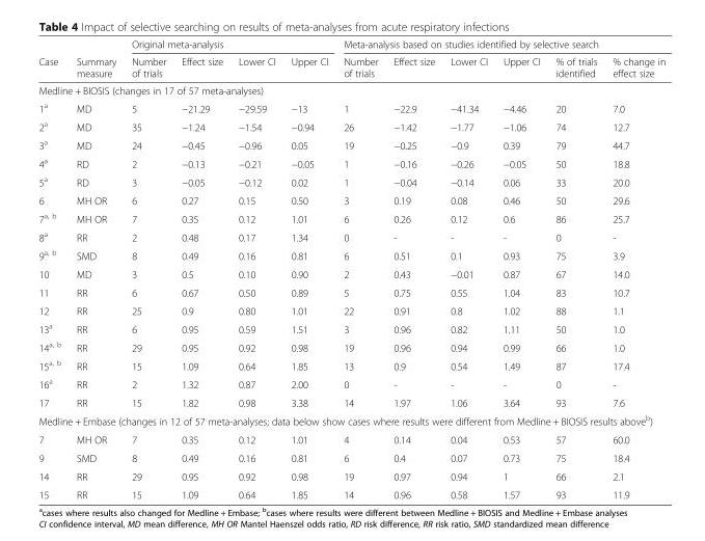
<table><thead><tr><td rowspan="2">Case</td><td rowspan="2">Summary measure</td><td colspan="4">Original meta-analysis</td><td colspan="6">Meta-analysis based on studies identified by selective search</td></tr><tr><td>Number of trials</td><td>Effect size</td><td>Lower CI</td><td>Upper CI</td><td>Number of trials</td><td>Effect size</td><td>Lower CI</td><td>Upper CI</td><td>% of trials identified</td><td>% change in effect size</td></tr></thead><tbody><tr><td colspan="12">Medline + BIOSIS (changes in 17 of 57 meta-analyses)</td></tr><tr><td>1<sup>a</sup></td><td>MD</td><td>5</td><td>−21.29</td><td>−29.59</td><td>−13</td><td>1</td><td>−22.9</td><td>−41.34</td><td>−4.46</td><td>20</td><td>7.0</td></tr><tr><td>2<sup>a</sup></td><td>MD</td><td>35</td><td>−1.24</td><td>−1.54</td><td>−0.94</td><td>26</td><td>−1.42</td><td>−1.77</td><td>−1.06</td><td>74</td><td>12.7</td></tr><tr><td>3<sup>a</sup></td><td>MD</td><td>24</td><td>−0.45</td><td>−0.96</td><td>0.05</td><td>19</td><td>−0.25</td><td>−0.9</td><td>0.39</td><td>79</td><td>44.7</td></tr><tr><td>4<sup>a</sup></td><td>RD</td><td>2</td><td>−0.13</td><td>−0.21</td><td>−0.05</td><td>1</td><td>−0.16</td><td>−0.26</td><td>−0.05</td><td>50</td><td>18.8</td></tr><tr><td>5<sup>a</sup></td><td>RD</td><td>3</td><td>−0.05</td><td>−0.12</td><td>0.02</td><td>1</td><td>−0.04</td><td>−0.14</td><td>0.06</td><td>33</td><td>20.0</td></tr><tr><td>6</td><td>MH OR</td><td>6</td><td>0.27</td><td>0.15</td><td>0.50</td><td>3</td><td>0.19</td><td>0.08</td><td>0.46</td><td>50</td><td>29.6</td></tr><tr><td>7<sup>a, b</sup></td><td>MH OR</td><td>7</td><td>0.35</td><td>0.12</td><td>1.01</td><td>6</td><td>0.26</td><td>0.12</td><td>0.6</td><td>86</td><td>25.7</td></tr><tr><td>8<sup>a</sup></td><td>RR</td><td>2</td><td>0.48</td><td>0.17</td><td>1.34</td><td>0</td><td>-</td><td>-</td><td>-</td><td>0</td><td>-</td></tr><tr><td>9<sup>a, b</sup></td><td>SMD</td><td>8</td><td>0.49</td><td>0.16</td><td>0.81</td><td>6</td><td>0.51</td><td>0.1</td><td>0.93</td><td>75</td><td>3.9</td></tr><tr><td>10</td><td>MD</td><td>3</td><td>0.5</td><td>0.10</td><td>0.90</td><td>2</td><td>0.43</td><td>−0.01</td><td>0.87</td><td>67</td><td>14.0</td></tr><tr><td>11</td><td>RR</td><td>6</td><td>0.67</td><td>0.50</td><td>0.89</td><td>5</td><td>0.75</td><td>0.55</td><td>1.04</td><td>83</td><td>10.7</td></tr><tr><td>12</td><td>RR</td><td>25</td><td>0.9</td><td>0.80</td><td>1.01</td><td>22</td><td>0.91</td><td>0.8</td><td>1.02</td><td>88</td><td>1.1</td></tr><tr><td>13<sup>a</sup></td><td>RR</td><td>6</td><td>0.95</td><td>0.59</td><td>1.51</td><td>3</td><td>0.96</td><td>0.82</td><td>1.11</td><td>50</td><td>1.0</td></tr><tr><td>14<sup>a, b</sup></td><td>RR</td><td>29</td><td>0.95</td><td>0.92</td><td>0.98</td><td>19</td><td>0.96</td><td>0.94</td><td>0.99</td><td>66</td><td>1.0</td></tr><tr><td>15<sup>a, b</sup></td><td>RR</td><td>15</td><td>1.09</td><td>0.64</td><td>1.85</td><td>13</td><td>0.9</td><td>0.54</td><td>1.49</td><td>87</td><td>17.4</td></tr><tr><td>16<sup>a</sup></td><td>RR</td><td>2</td><td>1.32</td><td>0.87</td><td>2.00</td><td>0</td><td>-</td><td>-</td><td>-</td><td>0</td><td>-</td></tr><tr><td>17</td><td>RR</td><td>15</td><td>1.82</td><td>0.98</td><td>3.38</td><td>14</td><td>1.97</td><td>1.06</td><td>3.64</td><td>93</td><td>7.6</td></tr><tr><td colspan="12">Medline + Embase (changes in 12 of 57 meta-analyses; data below show cases where results were different from Medline + BIOSIS results above<sup>b</sup>)</td></tr><tr><td>7</td><td>MH OR</td><td>7</td><td>0.35</td><td>0.12</td><td>1.01</td><td>4</td><td>0.14</td><td>0.04</td><td>0.53</td><td>57</td><td>60.0</td></tr><tr><td>9</td><td>SMD</td><td>8</td><td>0.49</td><td>0.16</td><td>0.81</td><td>6</td><td>0.4</td><td>0.07</td><td>0.73</td><td>75</td><td>18.4</td></tr><tr><td>14</td><td>RR</td><td>29</td><td>0.95</td><td>0.92</td><td>0.98</td><td>19</td><td>0.97</td><td>0.94</td><td>1</td><td>66</td><td>2.1</td></tr><tr><td>15</td><td>RR</td><td>15</td><td>1.09</td><td>0.64</td><td>1.85</td><td>14</td><td>0.96</td><td>0.58</td><td>1.57</td><td>93</td><td>11.9</td></tr></tbody></table>